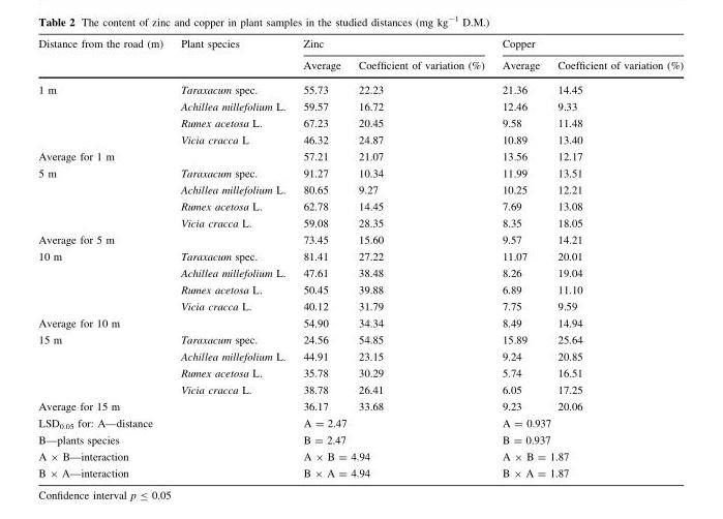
<table><thead><tr><td rowspan="2">Distance from the road (m)</td><td rowspan="2">Plant species</td><td colspan="2">Zinc</td><td colspan="2">Copper</td></tr><tr><td>Average</td><td>Coefficient of variation (%)</td><td>Average</td><td>Coefficient of variation (%)</td></tr></thead><tbody><tr><td rowspan="4">1 m</td><td>Taraxacum spec.</td><td>55.73</td><td>22.23</td><td>21.36</td><td>14.45</td></tr><tr><td>Achillea millefolium L.</td><td>59.57</td><td>16.72</td><td>12.46</td><td>9.33</td></tr><tr><td>Rumex acetosa L.</td><td>67.23</td><td>20.45</td><td>9.58</td><td>11.48</td></tr><tr><td>Vicia cracca L</td><td>46.32</td><td>24.87</td><td>10.89</td><td>13.40</td></tr><tr><td colspan="2">Average for 1 m</td><td>57.21</td><td>21.07</td><td>13.56</td><td>12.17</td></tr><tr><td rowspan="4">5 m</td><td>Taraxacum spec.</td><td>91.27</td><td>10.34</td><td>11.99</td><td>13.51</td></tr><tr><td>Achillea millefolium L.</td><td>80.65</td><td>9.27</td><td>10.25</td><td>12.21</td></tr><tr><td>Rumex acetosa L.</td><td>62.78</td><td>14.45</td><td>7.69</td><td>13.08</td></tr><tr><td>Vicia cracca L.</td><td>59.08</td><td>28.35</td><td>8.35</td><td>18.05</td></tr><tr><td colspan="2">Average for 5 m</td><td>73.45</td><td>15.60</td><td>9.57</td><td>14.21</td></tr><tr><td rowspan="4">10 m</td><td>Taraxacum spec.</td><td>81.41</td><td>27.22</td><td>11.07</td><td>20.01</td></tr><tr><td>Achillea millefolium L.</td><td>47.61</td><td>38.48</td><td>8.26</td><td>19.04</td></tr><tr><td>Rumex acetosa L.</td><td>50.45</td><td>39.88</td><td>6.89</td><td>11.10</td></tr><tr><td>Vicia cracca L.</td><td>40.12</td><td>31.79</td><td>7.75</td><td>9.59</td></tr><tr><td colspan="2">Average for 10 m</td><td>54.90</td><td>34.34</td><td>8.49</td><td>14.94</td></tr><tr><td rowspan="4">15 m</td><td>Taraxacum spec.</td><td>24.56</td><td>54.85</td><td>15.89</td><td>25.64</td></tr><tr><td>Achillea millefolium L.</td><td>44.91</td><td>23.15</td><td>9.24</td><td>20.85</td></tr><tr><td>Rumex acetosa L.</td><td>35.78</td><td>30.29</td><td>5.74</td><td>16.51</td></tr><tr><td>Vicia cracca L.</td><td>38.78</td><td>26.41</td><td>6.05</td><td>17.25</td></tr><tr><td colspan="2">Average for 15 m</td><td>36.17</td><td>33.68</td><td>9.23</td><td>20.06</td></tr><tr><td colspan="2">LSD<sub>0.05</sub> for: A—distance</td><td colspan="2">A = 2.47</td><td colspan="2">A = 0.937</td></tr><tr><td colspan="2">B—plants species</td><td colspan="2">B = 2.47</td><td colspan="2">B = 0.937</td></tr><tr><td colspan="2">A × B—interaction</td><td colspan="2">A × B = 4.94</td><td colspan="2">A × B = 1.87</td></tr><tr><td colspan="2">B × A—interaction</td><td colspan="2">B × A = 4.94</td><td colspan="2">B × A = 1.87</td></tr></tbody></table>